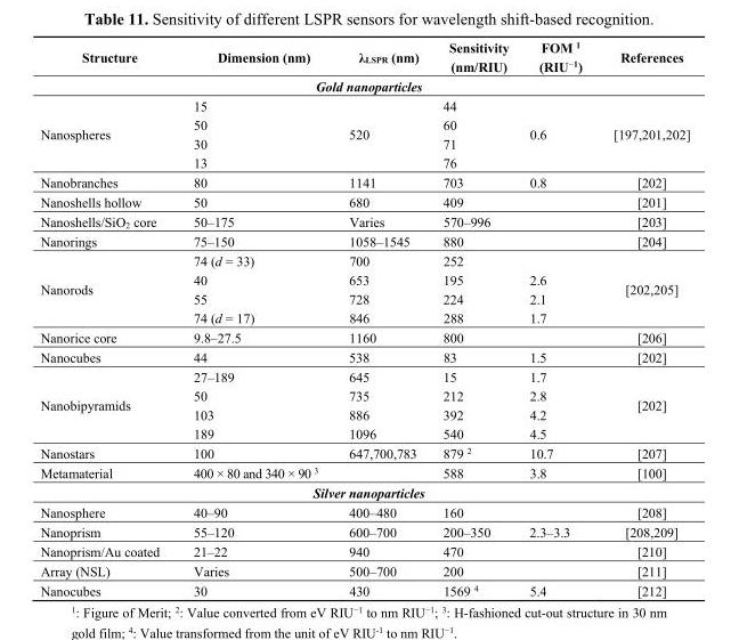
<table><thead><tr><td>Structure</td><td>Dimension (nm)</td><td>λ<sub>LSPR</sub> (nm)</td><td>Sensitivity (nm/RIU)</td><td>FOM <sup>1</sup> (RIU<sup>−1</sup>)</td><td>References</td></tr></thead><tbody><tr><td colspan="6">Gold nanoparticles</td></tr><tr><td rowspan="4">Nanospheres</td><td>15</td><td rowspan="4">520</td><td>44</td><td rowspan="4">0.6</td><td rowspan="4">[197,201,202]</td></tr><tr><td>50</td><td>60</td></tr><tr><td>30</td><td>71</td></tr><tr><td>13</td><td>76</td></tr><tr><td>Nanobranches</td><td>80</td><td>1141</td><td>703</td><td>0.8</td><td>[202]</td></tr><tr><td>Nanoshells hollow</td><td>50</td><td>680</td><td>409</td><td></td><td>[201]</td></tr><tr><td>Nanoshells/SiO<sub>2</sub> core</td><td>50–175</td><td>Varies</td><td>570–996</td><td></td><td>[203]</td></tr><tr><td>Nanorings</td><td>75–150</td><td>1058–1545</td><td>880</td><td></td><td>[204]</td></tr><tr><td rowspan="4">Nanorods</td><td>74 (d = 33)</td><td>700</td><td>252</td><td></td><td rowspan="4">[202,205]</td></tr><tr><td>40</td><td>653</td><td>195</td><td>2.6</td></tr><tr><td>55</td><td>728</td><td>224</td><td>2.1</td></tr><tr><td>74 (d = 17)</td><td>846</td><td>288</td><td>1.7</td></tr><tr><td>Nanorice core</td><td>9.8–27.5</td><td>1160</td><td>800</td><td></td><td>[206]</td></tr><tr><td>Nanocubes</td><td>44</td><td>538</td><td>83</td><td>1.5</td><td>[202]</td></tr><tr><td rowspan="4">Nanobipyramids</td><td>27–189</td><td>645</td><td>15</td><td>1.7</td><td rowspan="4">[202]</td></tr><tr><td>50</td><td>735</td><td>212</td><td>2.8</td></tr><tr><td>103</td><td>886</td><td>392</td><td>4.2</td></tr><tr><td>189</td><td>1096</td><td>540</td><td>4.5</td></tr><tr><td>Nanostars</td><td>100</td><td>647,700,783</td><td>879 <sup>2</sup></td><td>10.7</td><td>[207]</td></tr><tr><td>Metamaterial</td><td>400 × 80 and 340 × 90 <sup>3</sup></td><td></td><td>588</td><td>3.8</td><td>[100]</td></tr><tr><td colspan="6">Silver nanoparticles</td></tr><tr><td>Nanosphere</td><td>40–90</td><td>400–480</td><td>160</td><td></td><td>[208]</td></tr><tr><td>Nanoprism</td><td>55–120</td><td>600–700</td><td>200–350</td><td>2.3–3.3</td><td>[208,209]</td></tr><tr><td>Nanoprism/Au coated</td><td>21–22</td><td>940</td><td>470</td><td></td><td>[210]</td></tr><tr><td>Array (NSL)</td><td>Varies</td><td>500–700</td><td>200</td><td></td><td>[211]</td></tr><tr><td>Nanocubes</td><td>30</td><td>430</td><td>1569 <sup>4</sup></td><td>5.4</td><td>[212]</td></tr></tbody></table>